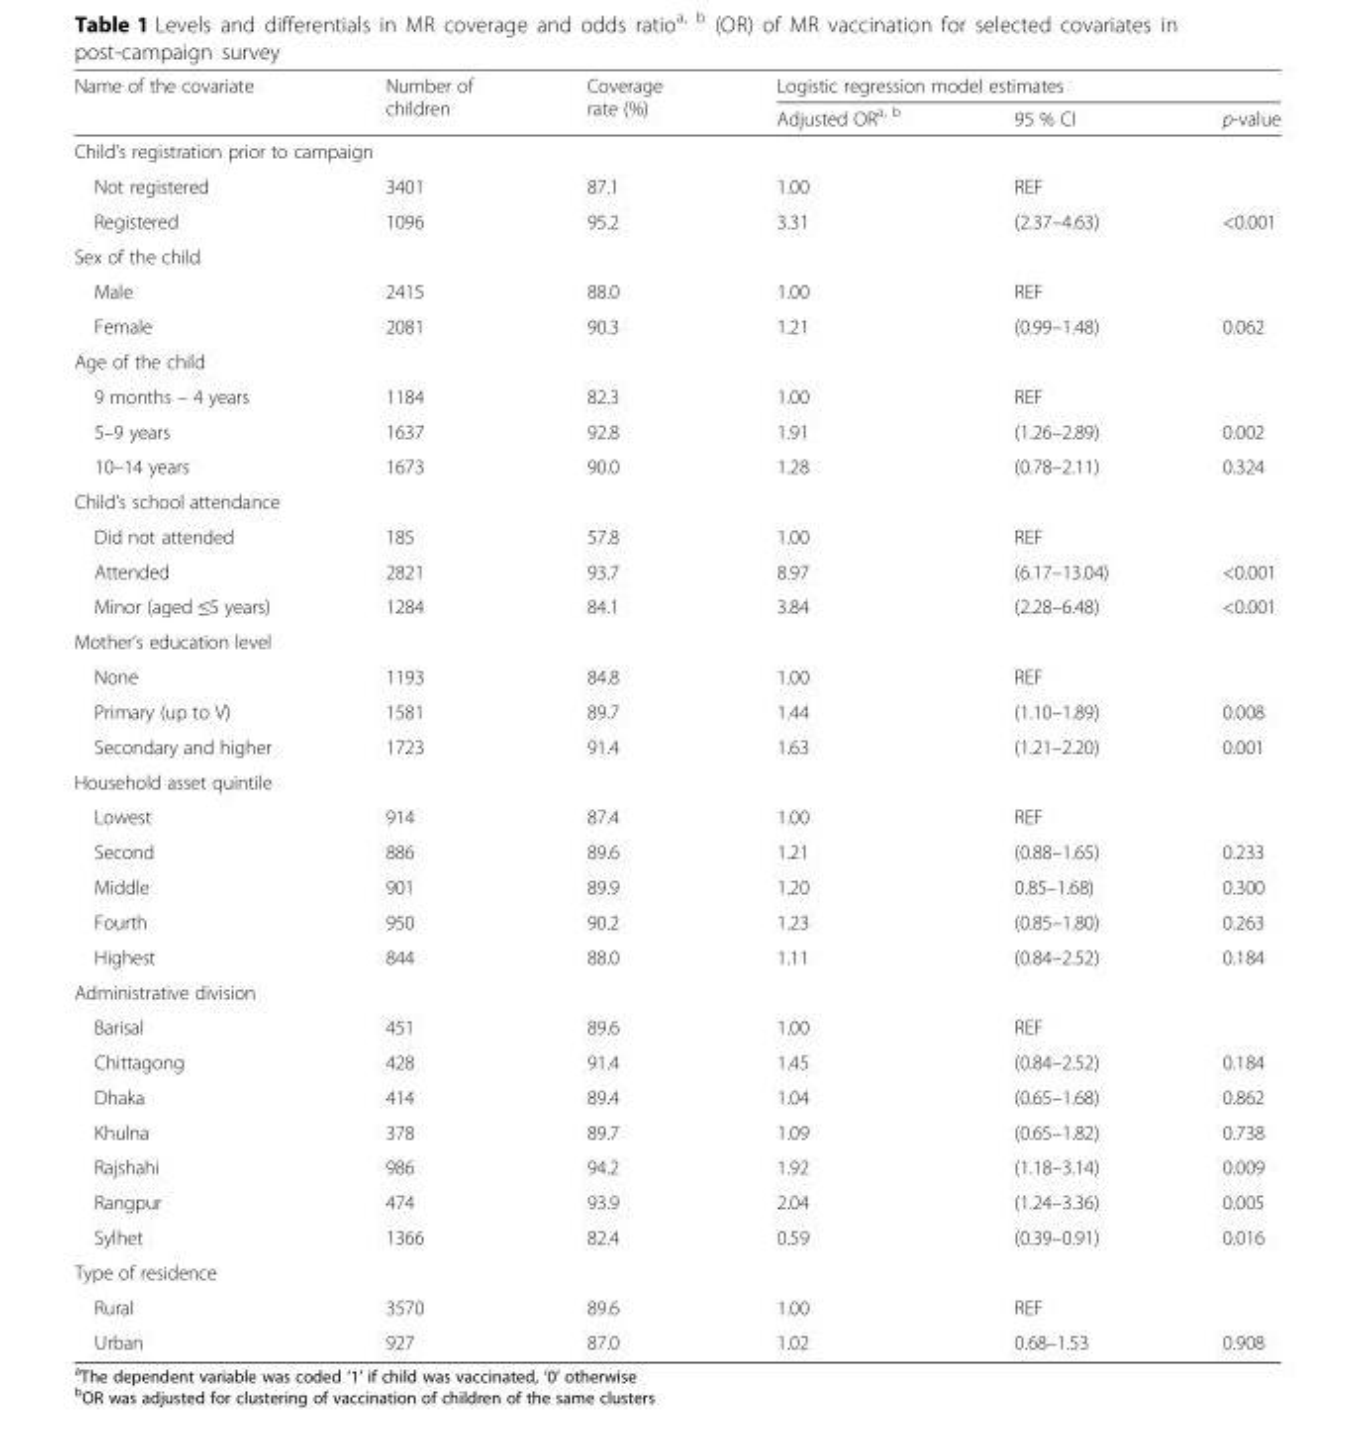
<table><thead><tr><td rowspan="2">Name of the covariate</td><td rowspan="2">Number of children</td><td rowspan="2">Coverage rate (%)</td><td colspan="3">Logistic regression model estimates</td></tr><tr><td>Adjusted OR<sup>a, b</sup></td><td>95 % CI</td><td>p-value</td></tr></thead><tbody><tr><td colspan="6">Child’s registration prior to campaign</td></tr><tr><td>Not registered</td><td>3401</td><td>87.1</td><td>1.00</td><td>REF</td><td></td></tr><tr><td>Registered</td><td>1096</td><td>95.2</td><td>3.31</td><td>(2.37–4.63)</td><td>&lt;0.001</td></tr><tr><td colspan="6">Sex of the child</td></tr><tr><td>Male</td><td>2415</td><td>88.0</td><td>1.00</td><td>REF</td><td></td></tr><tr><td>Female</td><td>2081</td><td>90.3</td><td>1.21</td><td>(0.99–1.48)</td><td>0.062</td></tr><tr><td colspan="6">Age of the child</td></tr><tr><td>9 months – 4 years</td><td>1184</td><td>82.3</td><td>1.00</td><td>REF</td><td></td></tr><tr><td>5–9 years</td><td>1637</td><td>92.8</td><td>1.91</td><td>(1.26–2.89)</td><td>0.002</td></tr><tr><td>10–14 years</td><td>1673</td><td>90.0</td><td>1.28</td><td>(0.78–2.11)</td><td>0.324</td></tr><tr><td colspan="6">Child’s school attendance</td></tr><tr><td>Did not attended</td><td>185</td><td>57.8</td><td>1.00</td><td>REF</td><td></td></tr><tr><td>Attended</td><td>2821</td><td>93.7</td><td>8.97</td><td>(6.17–13.04)</td><td>&lt;0.001</td></tr><tr><td>Minor (aged ≤5 years)</td><td>1284</td><td>84.1</td><td>3.84</td><td>(2.28–6.48)</td><td>&lt;0.001</td></tr><tr><td colspan="6">Mother’s education level</td></tr><tr><td>None</td><td>1193</td><td>84.8</td><td>1.00</td><td>REF</td><td></td></tr><tr><td>Primary (up to V)</td><td>1581</td><td>89.7</td><td>1.44</td><td>(1.10–1.89)</td><td>0.008</td></tr><tr><td>Secondary and higher</td><td>1723</td><td>91.4</td><td>1.63</td><td>(1.21–2.20)</td><td>0.001</td></tr><tr><td colspan="6">Household asset quintile</td></tr><tr><td>Lowest</td><td>914</td><td>87.4</td><td>1.00</td><td>REF</td><td></td></tr><tr><td>Second</td><td>886</td><td>89.6</td><td>1.21</td><td>(0.88–1.65)</td><td>0.233</td></tr><tr><td>Middle</td><td>901</td><td>89.9</td><td>1.20</td><td>0.85–1.68)</td><td>0.300</td></tr><tr><td>Fourth</td><td>950</td><td>90.2</td><td>1.23</td><td>(0.85–1.80)</td><td>0.263</td></tr><tr><td>Highest</td><td>844</td><td>88.0</td><td>1.11</td><td>(0.84–2.52)</td><td>0.184</td></tr><tr><td colspan="6">Administrative division</td></tr><tr><td>Barisal</td><td>451</td><td>89.6</td><td>1.00</td><td>REF</td><td></td></tr><tr><td>Chittagong</td><td>428</td><td>91.4</td><td>1.45</td><td>(0.84–2.52)</td><td>0.184</td></tr><tr><td>Dhaka</td><td>414</td><td>89.4</td><td>1.04</td><td>(0.65–1.68)</td><td>0.862</td></tr><tr><td>Khulna</td><td>378</td><td>89.7</td><td>1.09</td><td>(0.65–1.82)</td><td>0.738</td></tr><tr><td>Rajshahi</td><td>986</td><td>94.2</td><td>1.92</td><td>(1.18–3.14)</td><td>0.009</td></tr><tr><td>Rangpur</td><td>474</td><td>93.9</td><td>2.04</td><td>(1.24–3.36)</td><td>0.005</td></tr><tr><td>Sylhet</td><td>1366</td><td>82.4</td><td>0.59</td><td>(0.39–0.91)</td><td>0.016</td></tr><tr><td colspan="6">Type of residence</td></tr><tr><td>Rural</td><td>3570</td><td>89.6</td><td>1.00</td><td>REF</td><td></td></tr><tr><td>Urban</td><td>927</td><td>87.0</td><td>1.02</td><td>0.68–1.53</td><td>0.908</td></tr></tbody></table>